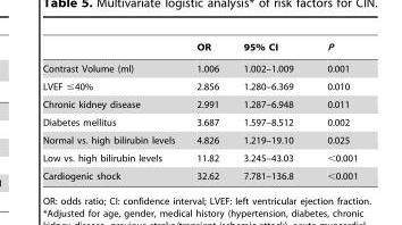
<table><thead><tr><td></td><td>OR</td><td>95% CI</td><td>P</td></tr></thead><tbody><tr><td>Contrast Volume (ml)</td><td>1.006</td><td>1.002–1.009</td><td>0.001</td></tr><tr><td>LVEF ≤40%</td><td>2.856</td><td>1.280–6.369</td><td>0.010</td></tr><tr><td>Chronic kidney disease</td><td>2.991</td><td>1.287–6.948</td><td>0.011</td></tr><tr><td>Diabetes mellitus</td><td>3.687</td><td>1.597–8.512</td><td>0.002</td></tr><tr><td>Normal vs. high bilirubin levels</td><td>4.826</td><td>1.219–19.10</td><td>0.025</td></tr><tr><td>Low vs. high bilirubin levels</td><td>11.82</td><td>3.245–43.03</td><td>&lt;0.001</td></tr><tr><td>Cardiogenic shock</td><td>32.62</td><td>7.781–136.8</td><td>&lt;0.001</td></tr></tbody></table>